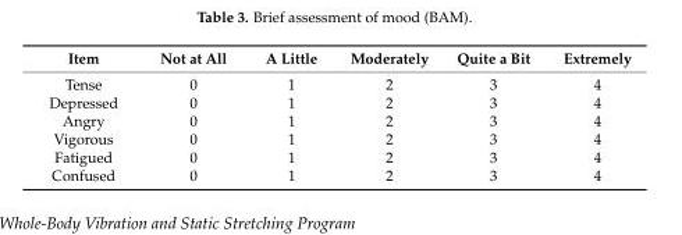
<table><thead><tr><td>Item</td><td>Not at All</td><td>A Little</td><td>Moderately</td><td>Quite a Bit</td><td>Extremely</td></tr></thead><tbody><tr><td>Tense</td><td>0</td><td>1</td><td>2</td><td>3</td><td>4</td></tr><tr><td>Depressed</td><td>0</td><td>1</td><td>2</td><td>3</td><td>4</td></tr><tr><td>Angry</td><td>0</td><td>1</td><td>2</td><td>3</td><td>4</td></tr><tr><td>Vigorous</td><td>0</td><td>1</td><td>2</td><td>3</td><td>4</td></tr><tr><td>Fatigued</td><td>0</td><td>1</td><td>2</td><td>3</td><td>4</td></tr><tr><td>Confused</td><td>0</td><td>1</td><td>2</td><td>3</td><td>4</td></tr></tbody></table>